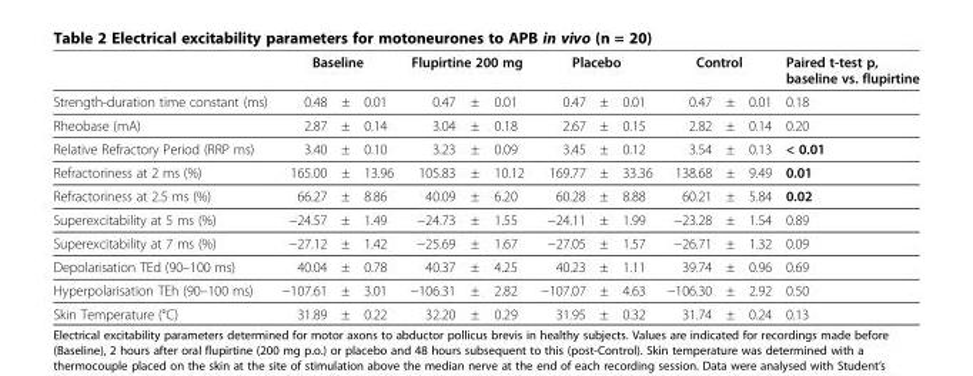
<table><thead><tr><td rowspan="2">Strength-duration time constant (ms)</td><td colspan="3">Baseline</td><td colspan="3">Flupirtine 200 mg</td><td colspan="3">Placebo</td><td colspan="3">Control</td><td rowspan="2">Paired t-test p, baseline vs. flupirtine 0.18</td></tr><tr><td>0.48</td><td>±</td><td>0.01</td><td>0.47</td><td>±</td><td>0.01</td><td>0.47</td><td>±</td><td>0.01</td><td>0.47</td><td>±</td><td>0.01</td></tr></thead><tbody><tr><td>Rheobase (mA)</td><td>2.87</td><td>±</td><td>0.14</td><td>3.04</td><td>±</td><td>0.18</td><td>2.67</td><td>±</td><td>0.15</td><td>2.82</td><td>±</td><td>0.14</td><td>0.20</td></tr><tr><td>Relative Refractory Period (RRP ms)</td><td>3.40</td><td>±</td><td>0.10</td><td>3.23</td><td>±</td><td>0.09</td><td>3.45</td><td>±</td><td>0.12</td><td>3.54</td><td>±</td><td>0.13</td><td>&lt; 0.01</td></tr><tr><td>Refractoriness at 2 ms (%)</td><td>165.00</td><td>±</td><td>13.96</td><td>105.83</td><td>±</td><td>10.12</td><td>169.77</td><td>±</td><td>33.36</td><td>138.68</td><td>±</td><td>9.49</td><td>0.01</td></tr><tr><td>Refractoriness at 2.5 ms (%)</td><td>66.27</td><td>±</td><td>8.86</td><td>40.09</td><td>±</td><td>6.20</td><td>60.28</td><td>±</td><td>8.88</td><td>60.21</td><td>±</td><td>5.84</td><td>0.02</td></tr><tr><td>Superexcitability at 5 ms (%)</td><td>−24.57</td><td>±</td><td>1.49</td><td>−24.73</td><td>±</td><td>1.55</td><td>−24.11</td><td>±</td><td>1.99</td><td>−23.28</td><td>±</td><td>1.54</td><td>0.89</td></tr><tr><td>Superexcitability at 7 ms (%)</td><td>−27.12</td><td>±</td><td>1.42</td><td>−25.69</td><td>±</td><td>1.67</td><td>−27.05</td><td>±</td><td>1.57</td><td>−26.71</td><td>±</td><td>1.32</td><td>0.09</td></tr><tr><td>Depolarisation TEd (90–100 ms)</td><td>40.04</td><td>±</td><td>0.78</td><td>40.37</td><td>±</td><td>4.25</td><td>40.23</td><td>±</td><td>1.11</td><td>39.74</td><td>±</td><td>0.96</td><td>0.69</td></tr><tr><td>Hyperpolarisation TEh (90–100 ms)</td><td>−107.61</td><td>±</td><td>3.01</td><td>−106.31</td><td>±</td><td>2.82</td><td>−107.07</td><td>±</td><td>4.63</td><td>−106.30</td><td>±</td><td>2.92</td><td>0.50</td></tr><tr><td>Skin Temperature (°C)</td><td>31.89</td><td>±</td><td>0.22</td><td>32.20</td><td>±</td><td>0.29</td><td>31.95</td><td>±</td><td>0.32</td><td>31.74</td><td>±</td><td>0.24</td><td>0.13</td></tr></tbody></table>